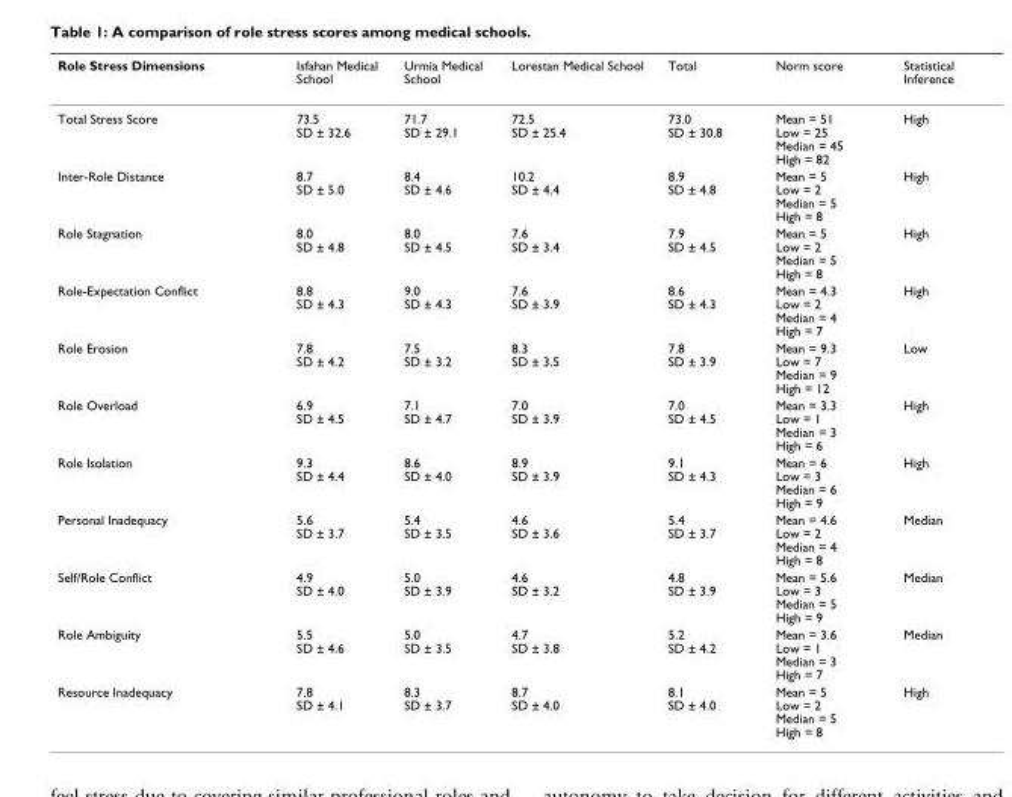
<table><thead><tr><td>Role Stress Dimensions</td><td>Isfahan Medical School</td><td>Urmia Medical School</td><td>Lorestan Medical School</td><td>Total</td><td>Norm score</td><td>Statistical Inference</td></tr></thead><tbody><tr><td>Total Stress Score</td><td>73.5 SD ± 32.6</td><td>71.7 SD ± 29.1</td><td>72.5 SD ± 25.4</td><td>73.0 SD ± 30.8</td><td>Mean = 51 Low = 25 Median = 45 High = 82</td><td>High</td></tr><tr><td>Inter-Role Distance</td><td>8.7 SD ± 5.0</td><td>8.4 SD ± 4.6</td><td>10.2 SD ± 4.4</td><td>8.9 SD ± 4.8</td><td>Mean = 5 Low = 2 Median = 5 High = 8</td><td>High</td></tr><tr><td>Role Stagnation</td><td>8.0 SD ± 4.8</td><td>8.0 SD ± 4.5</td><td>7.6 SD ± 3.4</td><td>7.9 SD ± 4.5</td><td>Mean = 5 Low = 2 Median = 5 High = 8</td><td>High</td></tr><tr><td>Role-Expectation Conflict</td><td>8.8 SD ± 4.3</td><td>9.0 SD ± 4.3</td><td>7.6 SD ± 3.9</td><td>8.6 SD ± 4.3</td><td>Mean = 4.3 Low = 2 Median = 4 High = 7</td><td>High</td></tr><tr><td>Role Erosion</td><td>7.8 SD ± 4.2</td><td>7.5 SD ± 3.2</td><td>8.3 SD ± 3.5</td><td>7.8 SD ± 3.9</td><td>Mean = 9.3 Low = 7 Median = 9 High = 12</td><td>Low</td></tr><tr><td>Role Overload</td><td>6.9 SD ± 4.5</td><td>7.1 SD ± 4.7</td><td>7.0 SD ± 3.9</td><td>7.0 SD ± 4.5</td><td>Mean = 3.3 Low = 1 Median = 3 High = 6</td><td>High</td></tr><tr><td>Role Isolation</td><td>9.3 SD ± 4.4</td><td>8.6 SD ± 4.0</td><td>8.9 SD ± 3.9</td><td>9.1 SD ± 4.3</td><td>Mean = 6 Low = 3 Median = 6 High = 9</td><td>High</td></tr><tr><td>Personal Inadequacy</td><td>5.6 SD ± 3.7</td><td>5.4 SD ± 3.5</td><td>4.6 SD ± 3.6</td><td>5.4 SD ± 3.7</td><td>Mean = 4.6 Low = 2 Median = 4 High = 8</td><td>Median</td></tr><tr><td>Self/Role Conflict</td><td>4.9 SD ± 4.0</td><td>5.0 SD ± 3.9</td><td>4.6 SD ± 3.2</td><td>4.8 SD ± 3.9</td><td>Mean = 5.6 Low = 3 Median = 5 High = 9</td><td>Median</td></tr><tr><td>Role Ambiguity</td><td>5.5 SD ± 4.6</td><td>5.0 SD ± 3.5</td><td>4.7 SD ± 3.8</td><td>5.2 SD ± 4.2</td><td>Mean = 3.6 Low = 1 Median = 3 High = 7</td><td>Median</td></tr><tr><td>Resource Inadequacy</td><td>7.8 SD ± 4.1</td><td>8.3 SD ± 3.7</td><td>8.7 SD ± 4.0</td><td>8.1 SD ± 4.0</td><td>Mean = 5 Low = 2 Median = 5 High = 8</td><td>High</td></tr></tbody></table>